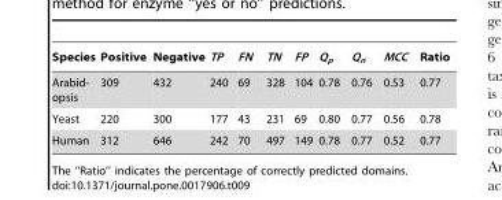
<table><thead><tr><td>Species</td><td>Positive</td><td>Negative</td><td>TP</td><td>FN</td><td>TN</td><td>FP</td><td>Q<sub>p</sub></td><td>Q<sub>n</sub></td><td>MCC</td><td>Ratio</td></tr></thead><tbody><tr><td>Arabid- opsis</td><td>309</td><td>432</td><td>240</td><td>69</td><td>328</td><td>104</td><td>0.78</td><td>0.76</td><td>0.53</td><td>0.77</td></tr><tr><td>Yeast</td><td>220</td><td>300</td><td>177</td><td>43</td><td>231</td><td>69</td><td>0.80</td><td>0.77</td><td>0.56</td><td>0.78</td></tr><tr><td>Human</td><td>312</td><td>646</td><td>242</td><td>70</td><td>497</td><td>149</td><td>0.78</td><td>0.77</td><td>0.52</td><td>0.77</td></tr></tbody></table>